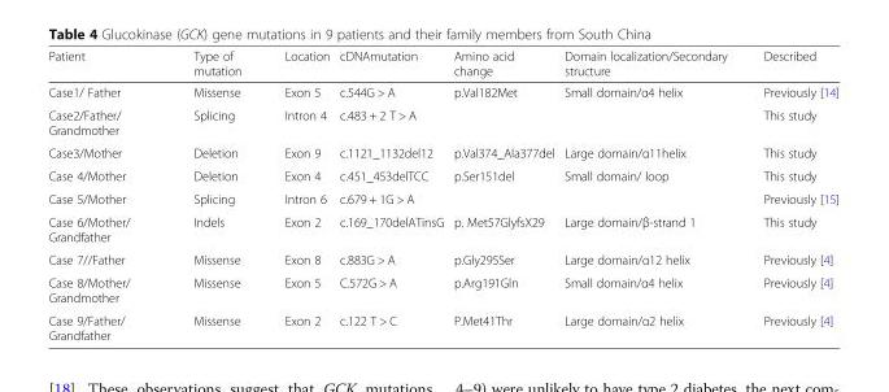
<table><thead><tr><td>Patient</td><td>Type of mutation</td><td>Location</td><td>cDNAmutation</td><td>Amino acid change</td><td>Domain localization/Secondary structure</td><td>Described</td></tr></thead><tbody><tr><td>Case1/ Father</td><td>Missense</td><td>Exon 5</td><td>c.544G &gt; A</td><td>p.Val182Met</td><td>Small domain/α4 helix</td><td>Previously [14]</td></tr><tr><td>Case2/Father/ Grandmother</td><td>Splicing</td><td>Intron 4</td><td>c.483 + 2 T &gt; A</td><td></td><td></td><td>This study</td></tr><tr><td>Case3/Mother</td><td>Deletion</td><td>Exon 9</td><td>c.1121_1132del12</td><td>p.Val374_Ala377del</td><td>Large domain/α11helix</td><td>This study</td></tr><tr><td>Case 4/Mother</td><td>Deletion</td><td>Exon 4</td><td>c.451_453delTCC</td><td>p.Ser151del</td><td>Small domain/ loop</td><td>This study</td></tr><tr><td>Case 5/Mother</td><td>Splicing</td><td>Intron 6</td><td>c.679 + 1G &gt; A</td><td></td><td></td><td>Previously [15]</td></tr><tr><td>Case 6/Mother/ Grandfather</td><td>Indels</td><td>Exon 2</td><td>c.169_170delATinsG</td><td>p. Met57GlyfsX29</td><td>Large domain/β-strand 1</td><td>This study</td></tr><tr><td>Case 7//Father</td><td>Missense</td><td>Exon 8</td><td>c.883G &gt; A</td><td>p.Gly295Ser</td><td>Large domain/α12 helix</td><td>Previously [4]</td></tr><tr><td>Case 8/Mother/ Grandmother</td><td>Missense</td><td>Exon 5</td><td>C.572G &gt; A</td><td>p.Arg191Gln</td><td>Small domain/α4 helix</td><td>Previously [4]</td></tr><tr><td>Case 9/Father/ Grandfather</td><td>Missense</td><td>Exon 2</td><td>c.122 T &gt; C</td><td>P.Met41Thr</td><td>Large domain/α2 helix</td><td>Previously [4]</td></tr></tbody></table>